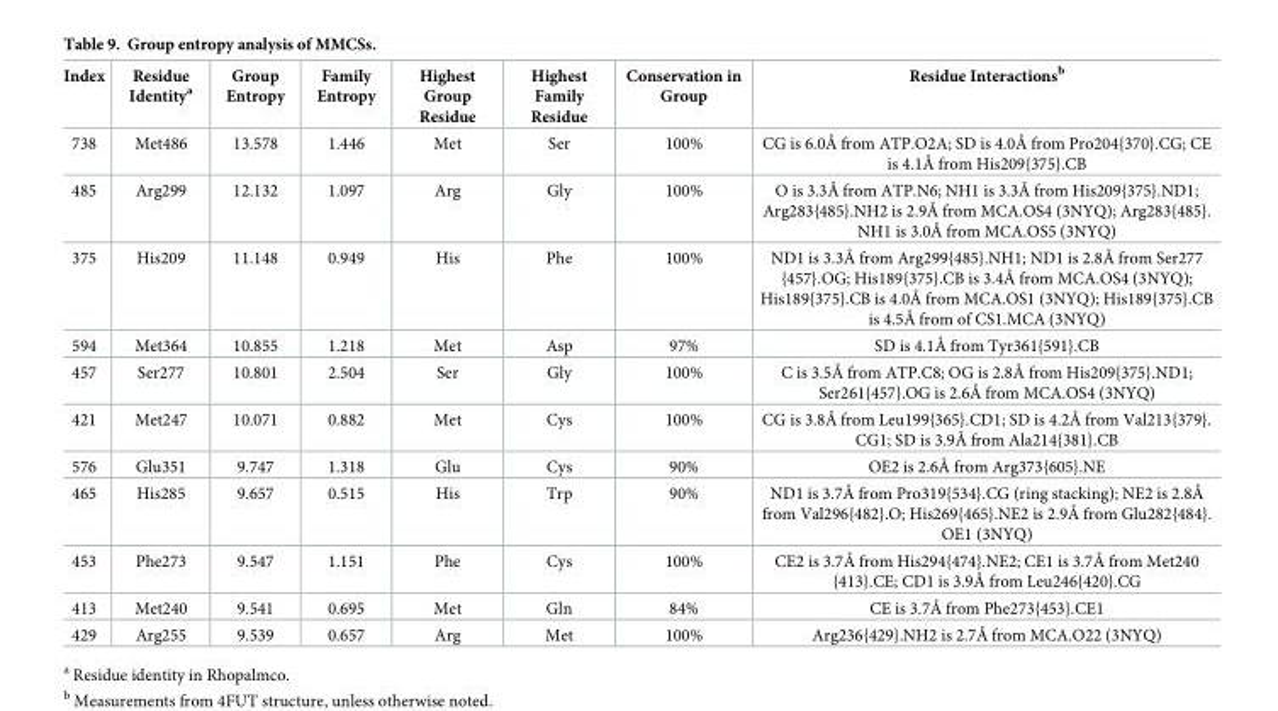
<table><thead><tr><td>Index</td><td>Residue Identity<sup>a</sup></td><td>Group Entropy</td><td>Family Entropy</td><td>Highest Group Residue</td><td>Highest Family Residue</td><td>Conservation in Group</td><td>Residue Interactions<sup>b</sup></td></tr></thead><tbody><tr><td>738</td><td>Met486</td><td>13.578</td><td>1.446</td><td>Met</td><td>Ser</td><td>100%</td><td>CG is 6.0Å from ATP.O2A; SD is 4.0Å from Pro204{370}.CG; CE is 4.1Å from His209{375}.CB</td></tr><tr><td>485</td><td>Arg299</td><td>12.132</td><td>1.097</td><td>Arg</td><td>Gly</td><td>100%</td><td>O is 3.3Å from ATP.N6; NH1 is 3.3Å from His209{375}.ND1; Arg283{485}.NH2 is 2.9Å from MCA.OS4 (3NYQ); Arg283{485}. NH1 is 3.0Å from MCA.OS5 (3NYQ)</td></tr><tr><td>375</td><td>His209</td><td>11.148</td><td>0.949</td><td>His</td><td>Phe</td><td>100%</td><td>ND1 is 3.3Å from Arg299{485}.NH1; ND1 is 2.8Å from Ser277 {457}.OG; His189{375}.CB is 3.4Å from MCA.OS4 (3NYQ); His189{375}.CB is 4.0Å from MCA.OS1 (3NYQ); His189{375}.CB is 4.5Å from of CS1.MCA (3NYQ)</td></tr><tr><td>594</td><td>Met364</td><td>10.855</td><td>1.218</td><td>Met</td><td>Asp</td><td>97%</td><td>SD is 4.1Å from Tyr361{591}.CB</td></tr><tr><td>457</td><td>Ser277</td><td>10.801</td><td>2.504</td><td>Ser</td><td>Gly</td><td>100%</td><td>C is 3.5Å from ATP.C8; OG is 2.8Å from His209{375}.ND1; Ser261{457}.OG is 2.6Å from MCA.OS4 (3NYQ)</td></tr><tr><td>421</td><td>Met247</td><td>10.071</td><td>0.882</td><td>Met</td><td>Cys</td><td>100%</td><td>CG is 3.8Å from Leu199{365}.CD1; SD is 4.2Å from Val213{379}. CG1; SD is 3.9Å from Ala214{381}.CB</td></tr><tr><td>576</td><td>Glu351</td><td>9.747</td><td>1.318</td><td>Glu</td><td>Cys</td><td>90%</td><td>OE2 is 2.6Å from Arg373{605}.NE</td></tr><tr><td>465</td><td>His285</td><td>9.657</td><td>0.515</td><td>His</td><td>Trp</td><td>90%</td><td>ND1 is 3.7Å from Pro319{534}.CG (ring stacking); NE2 is 2.8Å from Val296{482}.O; His269{465}.NE2 is 2.9Å from Glu282{484}. OE1 (3NYQ)</td></tr><tr><td>453</td><td>Phe273</td><td>9.547</td><td>1.151</td><td>Phe</td><td>Cys</td><td>100%</td><td>CE2 is 3.7Å from His294{474}.NE2; CE1 is 3.7Å from Met240 {413}.CE; CD1 is 3.9Å from Leu246{420}.CG</td></tr><tr><td>413</td><td>Met240</td><td>9.541</td><td>0.695</td><td>Met</td><td>Gln</td><td>84%</td><td>CE is 3.7Å from Phe273{453}.CE1</td></tr><tr><td>429</td><td>Arg255</td><td>9.539</td><td>0.657</td><td>Arg</td><td>Met</td><td>100%</td><td>Arg236{429}.NH2 is 2.7Å from MCA.O22 (3NYQ)</td></tr></tbody></table>